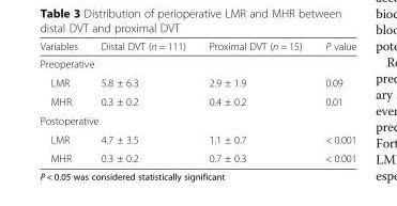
<table><thead><tr><td>Variables</td><td>Distal DVT (n = 111)</td><td>Proximal DVT (n = 15)</td><td>P value</td></tr></thead><tbody><tr><td colspan="4">Preoperative</td></tr><tr><td>LMR</td><td>5.8 ± 6.3</td><td>2.9 ± 1.9</td><td>0.09</td></tr><tr><td>MHR</td><td>0.3 ± 0.2</td><td>0.4 ± 0.2</td><td>0.01</td></tr><tr><td colspan="4">Postoperative</td></tr><tr><td>LMR</td><td>4.7 ± 3.5</td><td>1.1 ± 0.7</td><td>&lt; 0.001</td></tr><tr><td>MHR</td><td>0.3 ± 0.2</td><td>0.7 ± 0.3</td><td>&lt; 0.001</td></tr></tbody></table>